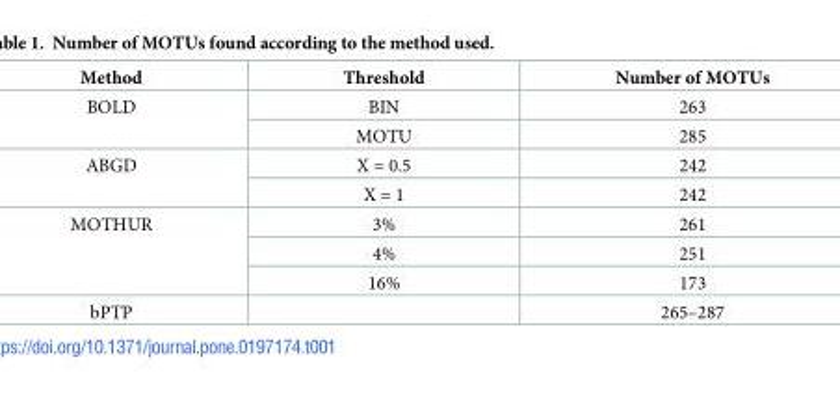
<table><thead><tr><td>Method</td><td>Threshold</td><td>Number of MOTUs</td></tr></thead><tbody><tr><td rowspan="2">BOLD</td><td>BIN</td><td>263</td></tr><tr><td>MOTU</td><td>285</td></tr><tr><td rowspan="2">ABGD</td><td>X = 0.5</td><td>242</td></tr><tr><td>X = 1</td><td>242</td></tr><tr><td rowspan="3">MOTHUR</td><td>3%</td><td>261</td></tr><tr><td>4%</td><td>251</td></tr><tr><td>16%</td><td>173</td></tr><tr><td>bPTP</td><td></td><td>265–287</td></tr></tbody></table>